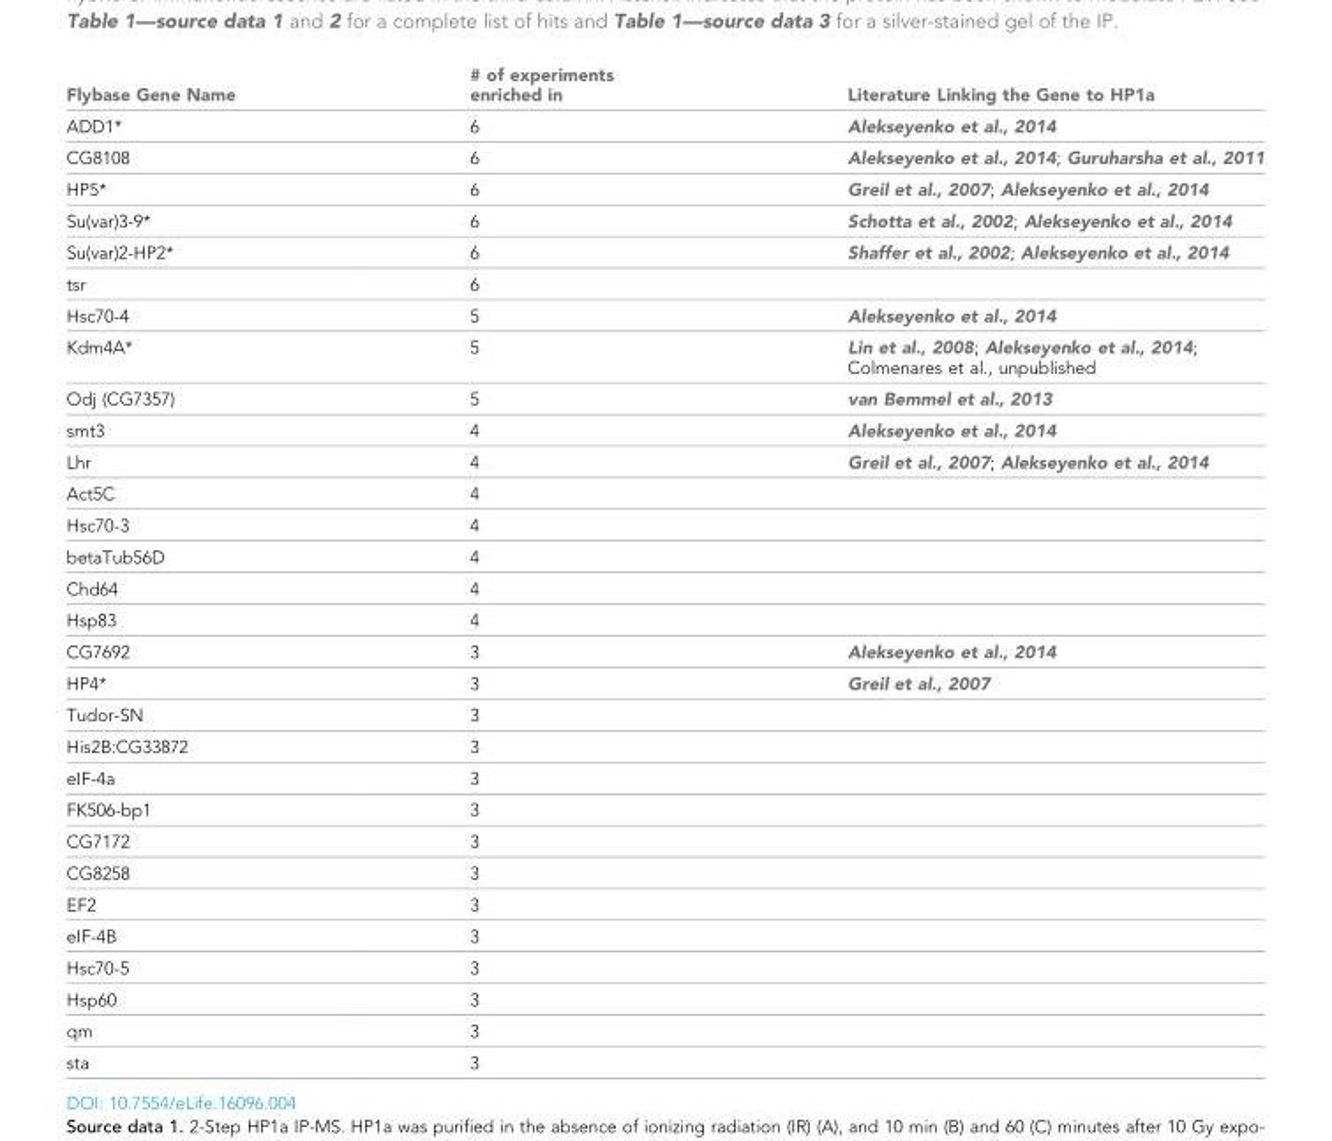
<table><thead><tr><td>Flybase Gene Name</td><td># of experiments enriched in</td><td>Literature Linking the Gene to HP1a</td></tr></thead><tbody><tr><td>ADD1*</td><td>6</td><td>Alekseyenko et al., 2014</td></tr><tr><td>CG8108</td><td>6</td><td>Alekseyenko et al., 2014; Guruharsha et al., 2011</td></tr><tr><td>HP5*</td><td>6</td><td>Greil et al., 2007; Alekseyenko et al., 2014</td></tr><tr><td>Su(var)3-9*</td><td>6</td><td>Schotta et al., 2002; Alekseyenko et al., 2014</td></tr><tr><td>Su(var)2-HP2*</td><td>6</td><td>Shaffer et al., 2002; Alekseyenko et al., 2014</td></tr><tr><td>tsr</td><td>6</td><td></td></tr><tr><td>Hsc70-4</td><td>5</td><td>Alekseyenko et al., 2014</td></tr><tr><td>Kdm4A*</td><td>5</td><td>Lin et al., 2008; Alekseyenko et al., 2014; Colmenares et al., unpublished</td></tr><tr><td>Odj (CG7357)</td><td>5</td><td>van Bemmel et al., 2013</td></tr><tr><td>smt3</td><td>4</td><td>Alekseyenko et al., 2014</td></tr><tr><td>Lhr</td><td>4</td><td>Greil et al., 2007; Alekseyenko et al., 2014</td></tr><tr><td>Act5C</td><td>4</td><td></td></tr><tr><td>Hsc70-3</td><td>4</td><td></td></tr><tr><td>betaTub56D</td><td>4</td><td></td></tr><tr><td>Chd64</td><td>4</td><td></td></tr><tr><td>Hsp83</td><td>4</td><td></td></tr><tr><td>CG7692</td><td>3</td><td>Alekseyenko et al., 2014</td></tr><tr><td>HP4*</td><td>3</td><td>Greil et al., 2007</td></tr><tr><td>Tudor-SN</td><td>3</td><td></td></tr><tr><td>His2B:CG33872</td><td>3</td><td></td></tr><tr><td>eIF-4a</td><td>3</td><td></td></tr><tr><td>FK506-bp1</td><td>3</td><td></td></tr><tr><td>CG7172</td><td>3</td><td></td></tr><tr><td>CG8258</td><td>3</td><td></td></tr><tr><td>EF2</td><td>3</td><td></td></tr><tr><td>eIF-4B</td><td>3</td><td></td></tr><tr><td>Hsc70-5</td><td>3</td><td></td></tr><tr><td>Hsp60</td><td>3</td><td></td></tr><tr><td>qm</td><td>3</td><td></td></tr><tr><td>sta</td><td>3</td><td></td></tr></tbody></table>